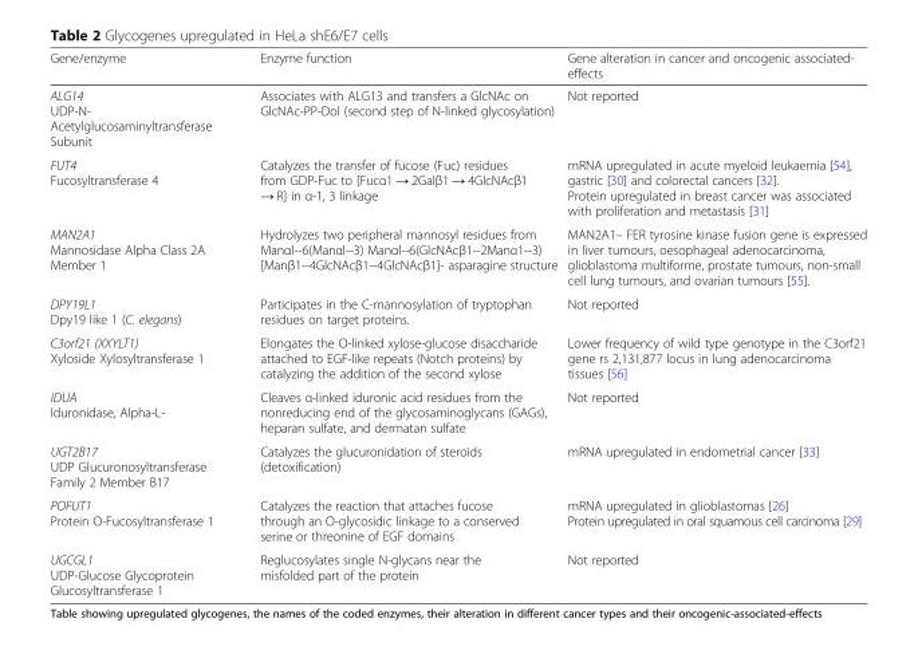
<table><thead><tr><td>Gene/enzyme</td><td>Enzyme function</td><td>Gene alteration in cancer and oncogenic associated- effects</td></tr></thead><tbody><tr><td>ALG14 UDP-N- Acetylglucosaminyltransferase Subunit</td><td>Associates with ALG13 and transfers a GlcNAc on GlcNAc-PP-Dol (second step of N-linked glycosylation)</td><td>Not reported</td></tr><tr><td>FUT4 Fucosyltransferase 4</td><td>Catalyzes the transfer of fucose (Fuc) residues from GDP-Fuc to [Fucα1 → 2Galβ1 → 4GlcNAcβ1 → R] in α-1, 3 linkage</td><td>mRNA upregulated in acute myeloid leukaemia [54], gastric [30] and colorectal cancers [32]. Protein upregulated in breast cancer was associated with proliferation and metastasis [31]</td></tr><tr><td>MAN2A1 Mannosidase Alpha Class 2A Member 1</td><td>Hydrolyzes two peripheral mannosyl residues from Manαl--6(Manαl--3) Manαl--6(GlcNAcβ1--2Manα1--3) [Manβ1--4GlcNAcβ1--4GlcNAcβ1]- asparagine structure</td><td>MAN2A1– FER tyrosine kinase fusion gene is expressed in liver tumours, oesophageal adenocarcinoma, glioblastoma multiforme, prostate tumours, non-small cell lung tumours, and ovarian tumours [55].</td></tr><tr><td>DPY19L1 Dpy19 like 1 (C. elegans)</td><td>Participates in the C-mannosylation of tryptophan residues on target proteins.</td><td>Not reported</td></tr><tr><td>C3orf21 (XXYLT1) Xyloside Xylosyltransferase 1</td><td>Elongates the O-linked xylose-glucose disaccharide attached to EGF-like repeats (Notch proteins) by catalyzing the addition of the second xylose</td><td>Lower frequency of wild type genotype in the C3orf21 gene rs 2,131,877 locus in lung adenocarcinoma tissues [56]</td></tr><tr><td>IDUA Iduronidase, Alpha-L-</td><td>Cleaves α-linked iduronic acid residues from the nonreducing end of the glycosaminoglycans (GAGs), heparan sulfate, and dermatan sulfate</td><td>Not reported</td></tr><tr><td>UGT2B17 UDP Glucuronosyltransferase Family 2 Member B17</td><td>Catalyzes the glucuronidation of steroids (detoxification)</td><td>mRNA upregulated in endometrial cancer [33]</td></tr><tr><td>POFUT1 Protein O-Fucosyltransferase 1</td><td>Catalyzes the reaction that attaches fucose through an O-glycosidic linkage to a conserved serine or threonine of EGF domains</td><td>mRNA upregulated in glioblastomas [26] Protein upregulated in oral squamous cell carcinoma [29]</td></tr><tr><td>UGCGL1 UDP-Glucose Glycoprotein Glucosyltransferase 1</td><td>Reglucosylates single N-glycans near the misfolded part of the protein</td><td>Not reported</td></tr></tbody></table>